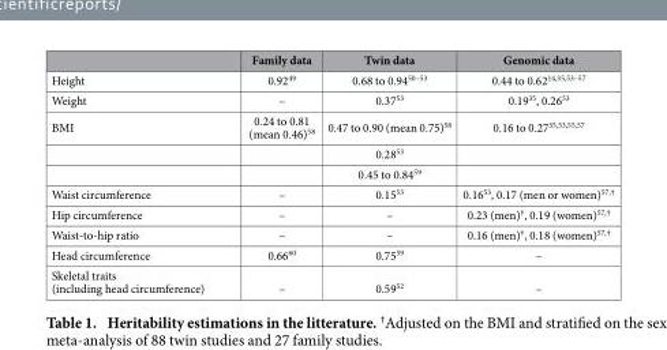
<table><thead><tr><td></td><td>Family data</td><td>Twin data</td><td>Genomic data</td></tr></thead><tbody><tr><td>Height</td><td>0.92<sup>49</sup></td><td>0.68 to 0.9450–53</td><td>0.44 to 0.6214,35,53–57</td></tr><tr><td>Weight</td><td>–</td><td>0.37<sup>53</sup></td><td>0.19<sup>35</sup>, 0.26<sup>53</sup></td></tr><tr><td rowspan="3">BMI</td><td>0.24 to 0.81 (mean 0.46)<sup>58</sup></td><td>0.47 to 0.90 (mean 0.75)<sup>58</sup></td><td>0.16 to 0.27<sup>35</sup>,<sup>53</sup>,<sup>55</sup>,<sup>57</sup></td></tr><tr><td></td><td>0.28<sup>53</sup></td><td></td></tr><tr><td></td><td>0.45 to 0.84<sup>59</sup></td><td></td></tr><tr><td>Waist circumference</td><td>–</td><td>0.15<sup>53</sup></td><td>0.16<sup>53</sup>, 0.17 (men or women)<sup>57</sup>,†</td></tr><tr><td>Hip circumference</td><td>–</td><td>–</td><td>0.23 (men)†, 0.19 (women)<sup>57</sup>,†</td></tr><tr><td>Waist-to-hip ratio</td><td>–</td><td>–</td><td>0.16 (men)†, 0.18 (women)<sup>57</sup>,†</td></tr><tr><td>Head circumference</td><td>0.66<sup>60</sup></td><td>0.75<sup>59</sup></td><td>–</td></tr><tr><td>Skeletal traits (including head circumference)</td><td>–</td><td>0.59<sup>52</sup></td><td>–</td></tr></tbody></table>